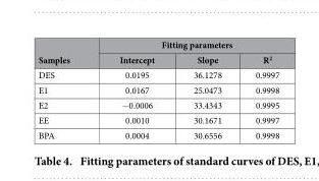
<table><thead><tr><td rowspan="2">Samples</td><td colspan="3">Fitting parameters</td></tr><tr><td>Intercept</td><td>Slope</td><td>R<sup>2</sup></td></tr></thead><tbody><tr><td>DES</td><td>0.0195</td><td>36.1278</td><td>0.9997</td></tr><tr><td>E1</td><td>0.0167</td><td>25.0473</td><td>0.9998</td></tr><tr><td>E2</td><td>− 0.0006</td><td>33.4343</td><td>0.9995</td></tr><tr><td>EE</td><td>0.0010</td><td>30.1671</td><td>0.9997</td></tr><tr><td>BPA</td><td>0.0004</td><td>30.6556</td><td>0.9998</td></tr></tbody></table>